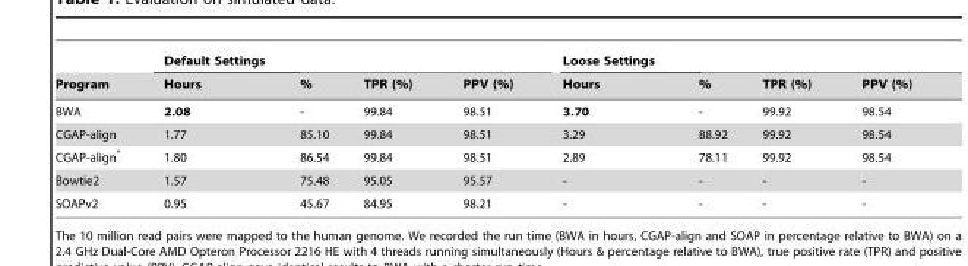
<table><thead><tr><td rowspan="2">Program</td><td rowspan="2">Default Settings Hours</td><td rowspan="2">%</td><td rowspan="2">TPR (%)</td><td rowspan="2">PPV (%)</td><td rowspan="2">Loose Settings Hours</td><td rowspan="2">%</td><td rowspan="2">TPR (%)</td><td rowspan="2">PPV (%)</td></tr><tr></tr></thead><tbody><tr><td>BWA</td><td>2.08</td><td>-</td><td>99.84</td><td>98.51</td><td>3.70</td><td>-</td><td>99.92</td><td>98.54</td></tr><tr><td>CGAP-align</td><td>1.77</td><td>85.10</td><td>99.84</td><td>98.51</td><td>3.29</td><td>88.92</td><td>99.92</td><td>98.54</td></tr><tr><td>CGAP-align*</td><td>1.80</td><td>86.54</td><td>99.84</td><td>98.51</td><td>2.89</td><td>78.11</td><td>99.92</td><td>98.54</td></tr><tr><td>Bowtie2</td><td>1.57</td><td>75.48</td><td>95.05</td><td>95.57</td><td>-</td><td>-</td><td>-</td><td>-</td></tr><tr><td>SOAPv2</td><td>0.95</td><td>45.67</td><td>84.95</td><td>98.21</td><td>-</td><td>-</td><td>-</td><td>-</td></tr></tbody></table>